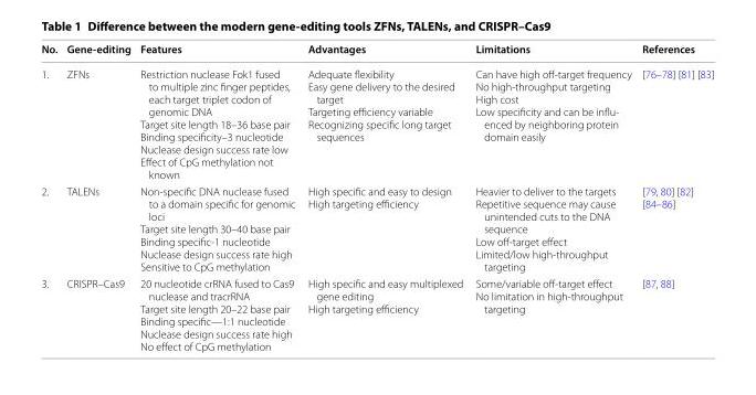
<table><thead><tr><td>No.</td><td>Gene‑editing</td><td>Features</td><td>Advantages</td><td>Limitations</td><td>References</td></tr></thead><tbody><tr><td>1.</td><td>ZFNs</td><td>Restriction nuclease Fok1 fused to multiple zinc finger peptides, each target triplet codon of genomic DNA Target site length 18–36 base pair Binding specificity–3 nucleotide Nuclease design success rate low Effect of CpG methylation not known</td><td>Adequate flexibility Easy gene delivery to the desired target Targeting efficiency variable Recognizing specific long target sequences</td><td>Can have high off-target frequency No high-throughput targeting High cost Low specificity and can be influ- enced by neighboring protein domain easily</td><td>[76–78] [81] [83]</td></tr><tr><td>2.</td><td>TALENs</td><td>Non-specific DNA nuclease fused to a domain specific for genomic loci Target site length 30–40 base pair Binding specific-1 nucleotide Nuclease design success rate high Sensitive to CpG methylation</td><td>High specific and easy to design High targeting efficiency</td><td>Heavier to deliver to the targets Repetitive sequence may cause unintended cuts to the DNA sequence Low off-target effect Limited/low high-throughput targeting</td><td>[79, 80] [82] [84–86]</td></tr><tr><td>3.</td><td>CRISPR–Cas9</td><td>20 nucleotide crRNA fused to Cas9 nuclease and tracrRNA Target site length 20–22 base pair Binding specific—1:1 nucleotide Nuclease design success rate high No effect of CpG methylation</td><td>High specific and easy multiplexed gene editing High targeting efficiency</td><td>Some/variable off-target effect No limitation in high-throughput targeting</td><td>[87, 88]</td></tr></tbody></table>